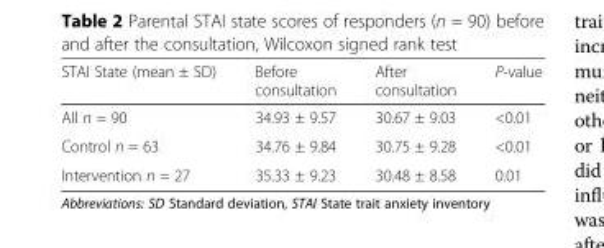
<table><thead><tr><td>STAI State (mean ± SD)</td><td>Before consultation</td><td>After consultation</td><td>P-value</td></tr></thead><tbody><tr><td>All n = 90</td><td>34.93 ± 9.57</td><td>30.67 ± 9.03</td><td>&lt;0.01</td></tr><tr><td>Control n = 63</td><td>34.76 ± 9.84</td><td>30.75 ± 9.28</td><td>&lt;0.01</td></tr><tr><td>Intervention n = 27</td><td>35.33 ± 9.23</td><td>30.48 ± 8.58</td><td>0.01</td></tr></tbody></table>